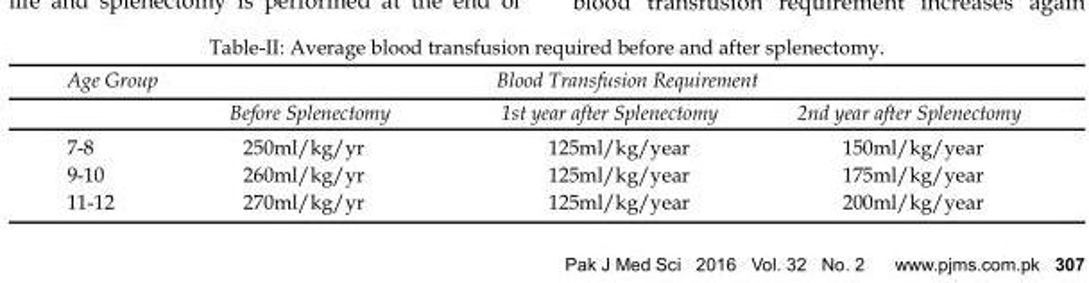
<table><thead><tr><td rowspan="2">Age Group</td><td colspan="3">Blood Transfusion Requirement</td></tr><tr><td>Before Splenectomy</td><td>1st year after Splenectomy</td><td>2nd year after Splenectomy</td></tr></thead><tbody><tr><td>7-8</td><td>250ml/kg/yr</td><td>125ml/kg/year</td><td>150ml/kg/year</td></tr><tr><td>9-10</td><td>260ml/kg/yr</td><td>125ml/kg/year</td><td>175ml/kg/year</td></tr><tr><td>11-12</td><td>270ml/kg/yr</td><td>125ml/kg/year</td><td>200ml/kg/year</td></tr></tbody></table>